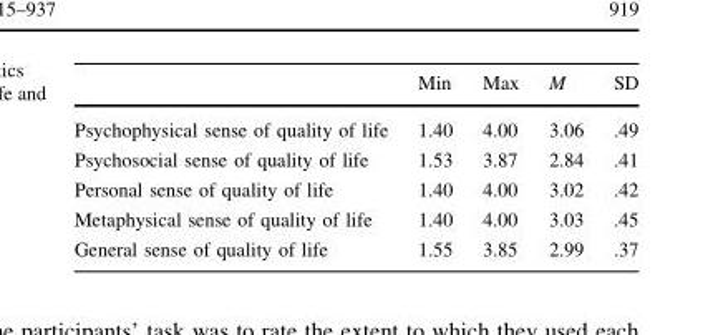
<table><thead><tr><td></td><td>Min</td><td>Max</td><td>M</td><td>SD</td></tr></thead><tbody><tr><td>Psychophysical sense of quality of life</td><td>1.40</td><td>4.00</td><td>3.06</td><td>.49</td></tr><tr><td>Psychosocial sense of quality of life</td><td>1.53</td><td>3.87</td><td>2.84</td><td>.41</td></tr><tr><td>Personal sense of quality of life</td><td>1.40</td><td>4.00</td><td>3.02</td><td>.42</td></tr><tr><td>Metaphysical sense of quality of life</td><td>1.40</td><td>4.00</td><td>3.03</td><td>.45</td></tr><tr><td>General sense of quality of life</td><td>1.55</td><td>3.85</td><td>2.99</td><td>.37</td></tr></tbody></table>